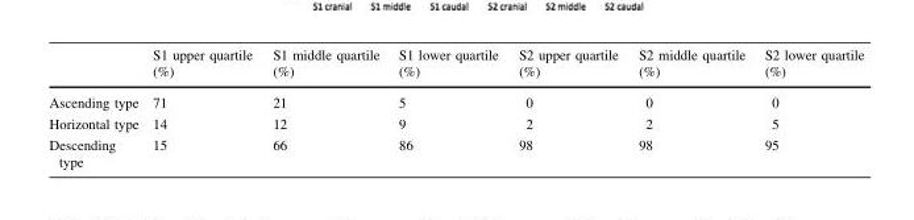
<table><thead><tr><td></td><td>S1 upper quartile (%)</td><td>S1 middle quartile (%)</td><td>S1 lower quartile (%)</td><td>S2 upper quartile (%)</td><td>S2 middle quartile (%)</td><td>S2 lower quartile (%)</td></tr></thead><tbody><tr><td>Ascending type</td><td>71</td><td>21</td><td>5</td><td>0</td><td>0</td><td>0</td></tr><tr><td>Horizontal type</td><td>14</td><td>12</td><td>9</td><td>2</td><td>2</td><td>5</td></tr><tr><td>Descending type</td><td>15</td><td>66</td><td>86</td><td>98</td><td>98</td><td>95</td></tr></tbody></table>